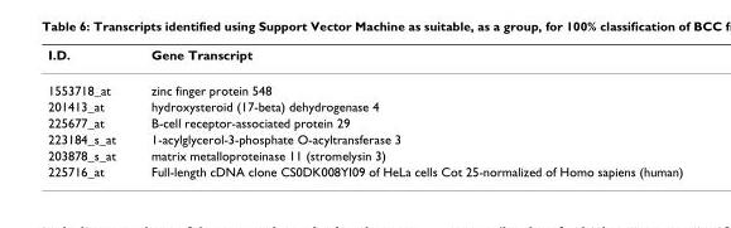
<table><thead><tr><td>I.D.</td><td>Gene Transcript</td></tr></thead><tbody><tr><td>1553718_at</td><td>zinc finger protein 548</td></tr><tr><td>201413_at</td><td>hydroxysteroid (17-beta) dehydrogenase 4</td></tr><tr><td>225677_at</td><td>B-cell receptor-associated protein 29</td></tr><tr><td>223184_s_at</td><td>1-acylglycerol-3-phosphate O-acyltransferase 3</td></tr><tr><td>203878_s_at</td><td>matrix metalloproteinase 11 (stromelysin 3)</td></tr><tr><td>225716_at</td><td>Full-length cDNA clone CS0DK008YI09 of HeLa cells Cot 25-normalized of Homo sapiens (human)</td></tr></tbody></table>